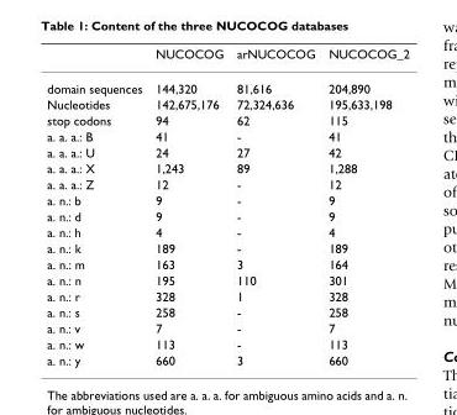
<table><thead><tr><td></td><td>NUCOCOG</td><td>arNUCOCOG</td><td>NUCOCOG_2</td></tr></thead><tbody><tr><td>domain sequences</td><td>144,320</td><td>81,616</td><td>204,890</td></tr><tr><td>Nucleotides</td><td>142,675,176</td><td>72,324,636</td><td>195,633,198</td></tr><tr><td>stop codons</td><td>94</td><td>62</td><td>115</td></tr><tr><td>a. a. a.: B</td><td>41</td><td>-</td><td>41</td></tr><tr><td>a. a. a.: U</td><td>24</td><td>27</td><td>42</td></tr><tr><td>a. a. a.: X</td><td>1,243</td><td>89</td><td>1,288</td></tr><tr><td>a. a. a.: Z</td><td>12</td><td>-</td><td>12</td></tr><tr><td>a. n.: b</td><td>9</td><td>-</td><td>9</td></tr><tr><td>a. n.: d</td><td>9</td><td>-</td><td>9</td></tr><tr><td>a. n.: h</td><td>4</td><td>-</td><td>4</td></tr><tr><td>a. n.: k</td><td>189</td><td>-</td><td>189</td></tr><tr><td>a. n.: m</td><td>163</td><td>3</td><td>164</td></tr><tr><td>a. n.: n</td><td>195</td><td>110</td><td>301</td></tr><tr><td>a. n.: r</td><td>328</td><td>1</td><td>328</td></tr><tr><td>a. n.: s</td><td>258</td><td>-</td><td>258</td></tr><tr><td>a. n.: v</td><td>7</td><td>-</td><td>7</td></tr><tr><td>a. n.: w</td><td>113</td><td>-</td><td>113</td></tr><tr><td>a. n.: y</td><td>660</td><td>3</td><td>660</td></tr></tbody></table>